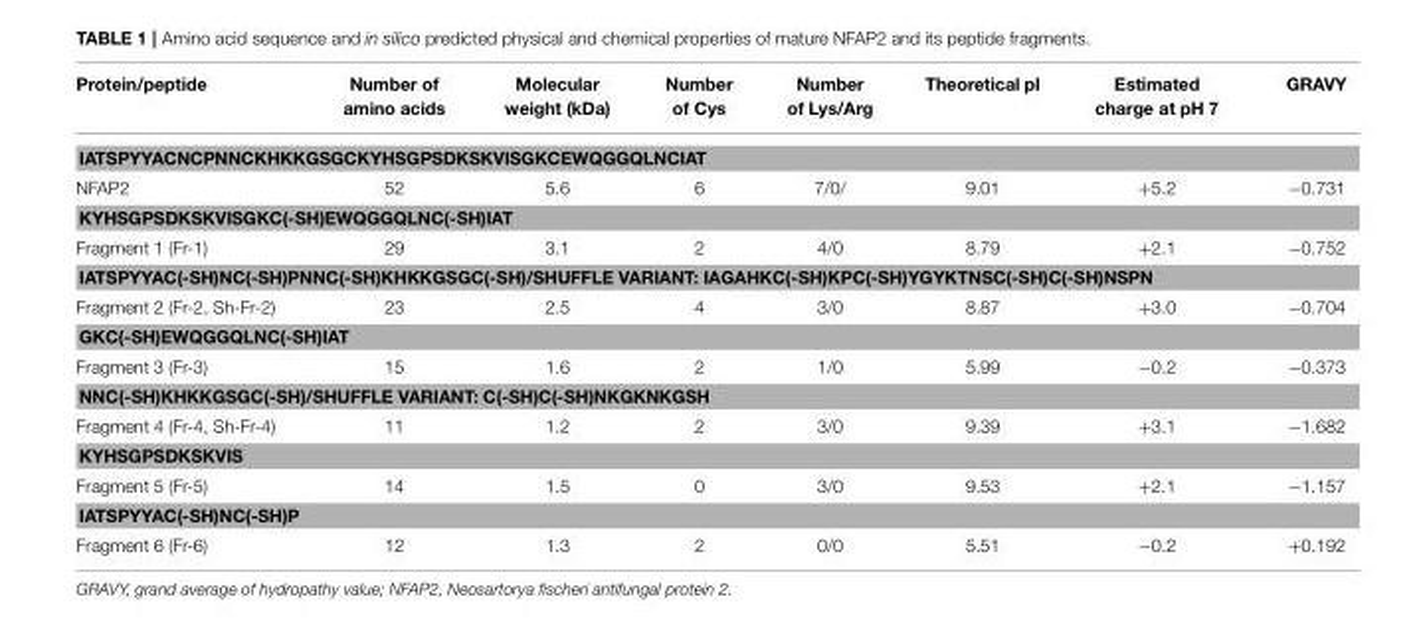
<table><thead><tr><td>Protein/peptide</td><td>Number of amino acids</td><td>Molecular weight (kDa)</td><td>Number of Cys</td><td>Number of Lys/Arg</td><td>Theoretical pI</td><td>Estimated charge at pH 7</td><td>GRAVY</td></tr></thead><tbody><tr><td colspan="8">IATSPYYACNCPNNCKHKKGSGCKYHSGPSDKSKVISGKCEWQGGQLNCIAT</td></tr><tr><td>NFAP2</td><td>52</td><td>5.6</td><td>6</td><td>7/0/</td><td>9.01</td><td>+5.2</td><td>−0.731</td></tr><tr><td colspan="8">KYHSGPSDKSKVISGKC(-SH)EWQGGQLNC(-SH)IAT</td></tr><tr><td>Fragment 1 (Fr-1)</td><td>29</td><td>3.1</td><td>2</td><td>4/0</td><td>8.79</td><td>+2.1</td><td>−0.752</td></tr><tr><td colspan="8">IATSPYYAC(-SH)NC(-SH)PNNC(-SH)KHKKGSGC(-SH)/SHUFFLE VARIANT: IAGAHKC(-SH)KPC(-SH)YGYKTNSC(-SH)C(-SH)NSPN</td></tr><tr><td>Fragment 2 (Fr-2, Sh-Fr-2)</td><td>23</td><td>2.5</td><td>4</td><td>3/0</td><td>8.87</td><td>+3.0</td><td>−0.704</td></tr><tr><td colspan="8">GKC(-SH)EWQGGQLNC(-SH)IAT</td></tr><tr><td>Fragment 3 (Fr-3)</td><td>15</td><td>1.6</td><td>2</td><td>1/0</td><td>5.99</td><td>−0.2</td><td>−0.373</td></tr><tr><td colspan="8">NNC(-SH)KHKKGSGC(-SH)/SHUFFLE VARIANT: C(-SH)C(-SH)NKGKNKGSH</td></tr><tr><td>Fragment 4 (Fr-4, Sh-Fr-4)</td><td>11</td><td>1.2</td><td>2</td><td>3/0</td><td>9.39</td><td>+3.1</td><td>−1.682</td></tr><tr><td colspan="8">KYHSGPSDKSKVIS</td></tr><tr><td>Fragment 5 (Fr-5)</td><td>14</td><td>1.5</td><td>0</td><td>3/0</td><td>9.53</td><td>+2.1</td><td>−1.157</td></tr><tr><td colspan="8">IATSPYYAC(-SH)NC(-SH)P</td></tr><tr><td>Fragment 6 (Fr-6)</td><td>12</td><td>1.3</td><td>2</td><td>0/0</td><td>5.51</td><td>−0.2</td><td>+0.192</td></tr></tbody></table>